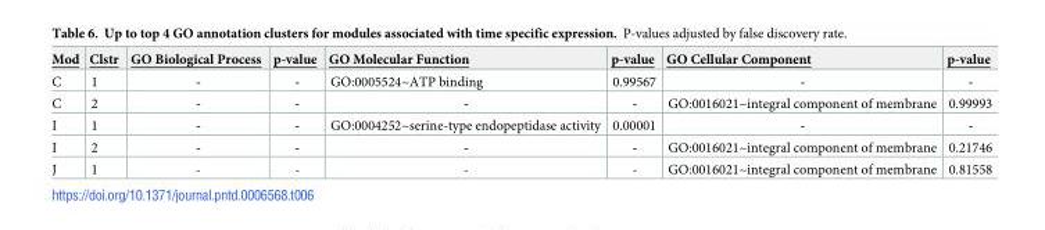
<table><thead><tr><td>Mod</td><td>Clstr</td><td>GO Biological Process</td><td>p-value</td><td>GO Molecular Function</td><td>p-value</td><td>GO Cellular Component</td><td>p-value</td></tr></thead><tbody><tr><td>C</td><td>1</td><td>-</td><td>-</td><td>GO:0005524~ATP binding</td><td>0.99567</td><td>-</td><td>-</td></tr><tr><td>C</td><td>2</td><td>-</td><td>-</td><td>-</td><td>-</td><td>GO:0016021~integral component of membrane</td><td>0.99993</td></tr><tr><td>I</td><td>1</td><td>-</td><td>-</td><td>GO:0004252~serine-type endopeptidase activity</td><td>0.00001</td><td>-</td><td>-</td></tr><tr><td>I</td><td>2</td><td>-</td><td>-</td><td>-</td><td>-</td><td>GO:0016021~integral component of membrane</td><td>0.21746</td></tr><tr><td>J</td><td>1</td><td>-</td><td>-</td><td>-</td><td>-</td><td>GO:0016021~integral component of membrane</td><td>0.81558</td></tr></tbody></table>